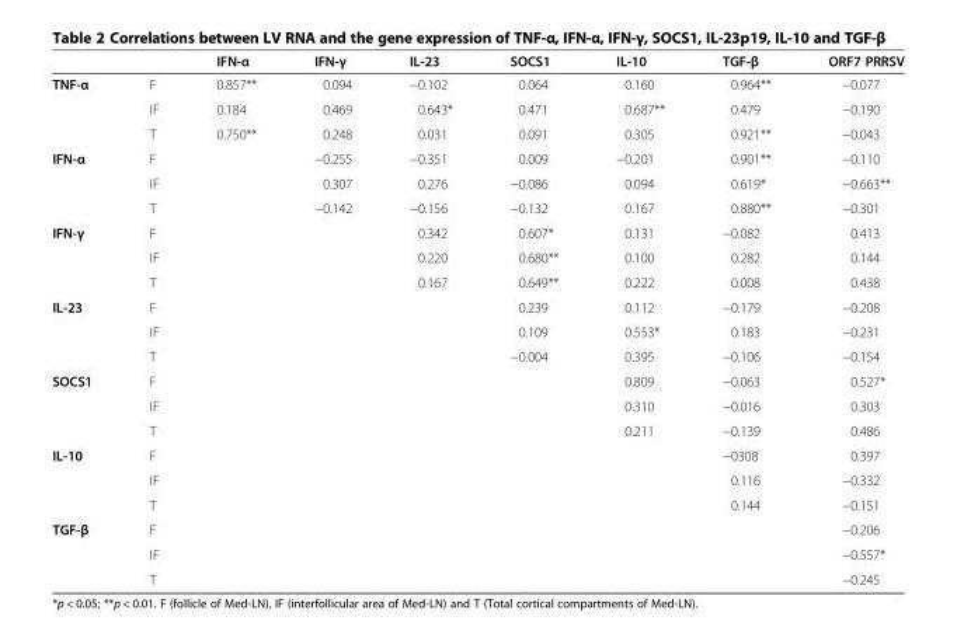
<table><thead><tr><td></td><td></td><td>IFN-α</td><td>IFN-γ</td><td>IL-23</td><td>SOCS1</td><td>IL-10</td><td>TGF-β</td><td>ORF7 PRRSV</td></tr></thead><tbody><tr><td rowspan="3">TNF-α</td><td>F</td><td>0.857**</td><td>0.094</td><td>−0.102</td><td>0.064</td><td>0.160</td><td>0.964**</td><td>−0.077</td></tr><tr><td>IF</td><td>0.184</td><td>0.469</td><td>0.643*</td><td>0.471</td><td>0.687**</td><td>0.479</td><td>−0.190</td></tr><tr><td>T</td><td>0.750**</td><td>0.248</td><td>0.031</td><td>0.091</td><td>0.305</td><td>0.921**</td><td>−0.043</td></tr><tr><td rowspan="3">IFN-α</td><td>F</td><td></td><td>−0.255</td><td>−0.351</td><td>0.009</td><td>−0.201</td><td>0.901**</td><td>−0.110</td></tr><tr><td>IF</td><td></td><td>0.307</td><td>0.276</td><td>−0.086</td><td>0.094</td><td>0.619*</td><td>−0.663**</td></tr><tr><td>T</td><td></td><td>−0.142</td><td>−0.156</td><td>−0.132</td><td>0.167</td><td>0.880**</td><td>−0.301</td></tr><tr><td rowspan="3">IFN-γ</td><td>F</td><td></td><td></td><td>0.342</td><td>0.607*</td><td>0.131</td><td>−0.082</td><td>0.413</td></tr><tr><td>IF</td><td></td><td></td><td>0.220</td><td>0.680**</td><td>0.100</td><td>0.282</td><td>0.144</td></tr><tr><td>T</td><td></td><td></td><td>0.167</td><td>0.649**</td><td>0.222</td><td>0.008</td><td>0.438</td></tr><tr><td rowspan="3">IL-23</td><td>F</td><td></td><td></td><td></td><td>0.239</td><td>0.112</td><td>−0.179</td><td>−0.208</td></tr><tr><td>IF</td><td></td><td></td><td></td><td>0.109</td><td>0.553*</td><td>0.183</td><td>−0.231</td></tr><tr><td>T</td><td></td><td></td><td></td><td>−0.004</td><td>0.395</td><td>−0.106</td><td>−0.154</td></tr><tr><td rowspan="3">SOCS1</td><td>F</td><td></td><td></td><td></td><td></td><td>0.809</td><td>−0.063</td><td>0.527*</td></tr><tr><td>IF</td><td></td><td></td><td></td><td></td><td>0.310</td><td>−0.016</td><td>0.303</td></tr><tr><td>T</td><td></td><td></td><td></td><td></td><td>0.211</td><td>−0.139</td><td>0.486</td></tr><tr><td rowspan="3">IL-10</td><td>F</td><td></td><td></td><td></td><td></td><td></td><td>−0308</td><td>0.397</td></tr><tr><td>IF</td><td></td><td></td><td></td><td></td><td></td><td>0.116</td><td>−0.332</td></tr><tr><td>T</td><td></td><td></td><td></td><td></td><td></td><td>0.144</td><td>−0.151</td></tr><tr><td rowspan="3">TGF-β</td><td>F</td><td></td><td></td><td></td><td></td><td></td><td></td><td>−0.206</td></tr><tr><td>IF</td><td></td><td></td><td></td><td></td><td></td><td></td><td>−0.557*</td></tr><tr><td>T</td><td></td><td></td><td></td><td></td><td></td><td></td><td>−0.245</td></tr></tbody></table>